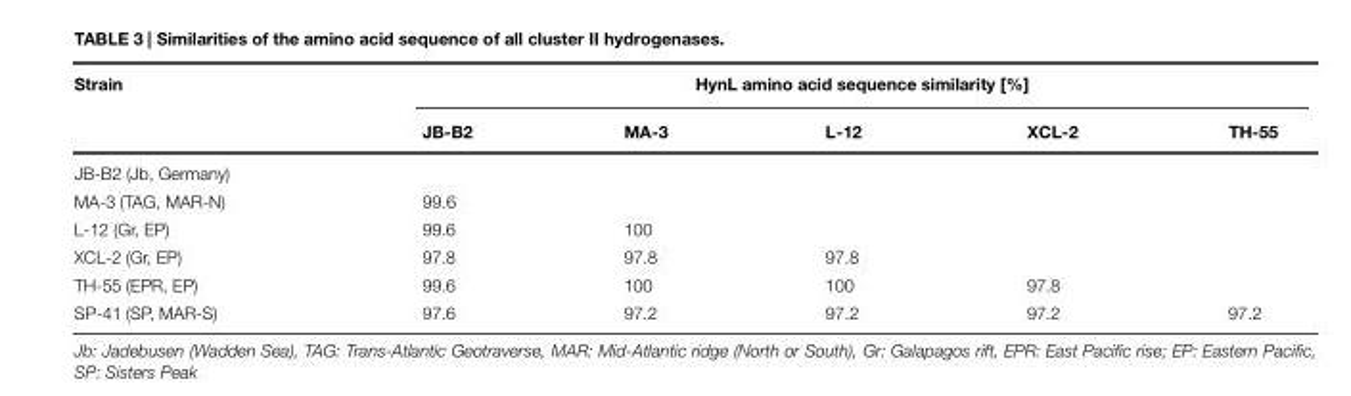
<table><thead><tr><td rowspan="2">Strain</td><td colspan="5">HynL amino acid sequence similarity [%]</td></tr><tr><td>JB-B2</td><td>MA-3</td><td>L-12</td><td>XCL-2</td><td>TH-55</td></tr></thead><tbody><tr><td colspan="6">JB-B2 (Jb, Germany)</td></tr><tr><td>MA-3 (TAG, MAR-N)</td><td>99.6</td><td></td><td></td><td></td><td></td></tr><tr><td>L-12 (Gr, EP)</td><td>99.6</td><td>100</td><td></td><td></td><td></td></tr><tr><td>XCL-2 (Gr, EP)</td><td>97.8</td><td>97.8</td><td>97.8</td><td></td><td></td></tr><tr><td>TH-55 (EPR, EP)</td><td>99.6</td><td>100</td><td>100</td><td>97.8</td><td></td></tr><tr><td>SP-41 (SP, MAR-S)</td><td>97.6</td><td>97.2</td><td>97.2</td><td>97.2</td><td>97.2</td></tr></tbody></table>